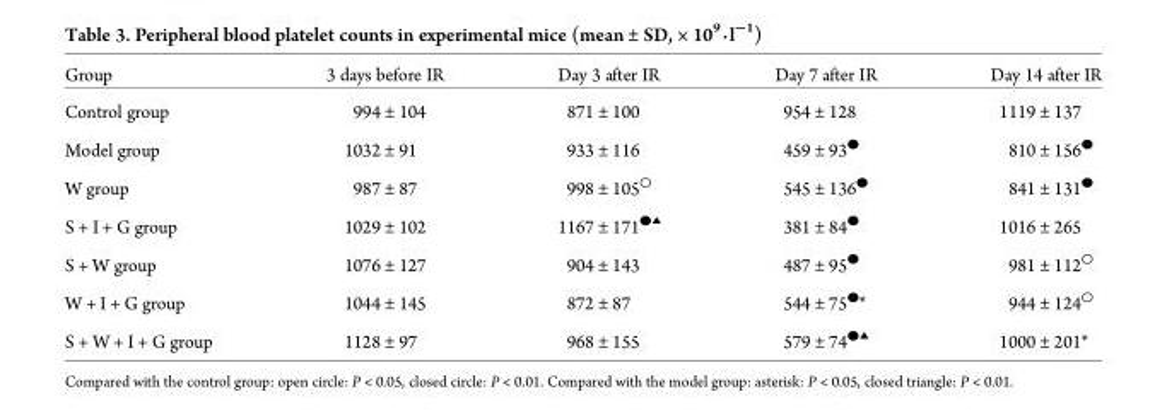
<table><thead><tr><td>Group</td><td>3 days before IR</td><td>Day 3 after IR</td><td>Day 7 after IR</td><td>Day 14 after IR</td></tr></thead><tbody><tr><td>Control group</td><td>994 ± 104</td><td>871 ± 100</td><td>954 ± 128</td><td>1119 ± 137</td></tr><tr><td>Model group</td><td>1032 ± 91</td><td>933 ± 116</td><td>459 ± 93<sup>●</sup></td><td>810 ± 156<sup>●</sup></td></tr><tr><td>W group</td><td>987 ± 87</td><td>998 ± 105<sup>○</sup></td><td>545 ± 136<sup>●</sup></td><td>841 ± 131<sup>●</sup></td></tr><tr><td>S + I + G group</td><td>1029 ± 102</td><td>1167 ± 171●▴</td><td>381 ± 84<sup>●</sup></td><td>1016 ± 265</td></tr><tr><td>S + W group</td><td>1076 ± 127</td><td>904 ± 143</td><td>487 ± 95<sup>●</sup></td><td>981 ± 112<sup>○</sup></td></tr><tr><td>W + I + G group</td><td>1044 ± 145</td><td>872 ± 87</td><td>544 ± 75<sup>●</sup>*</td><td>944 ± 124<sup>○</sup></td></tr><tr><td>S + W + I + G group</td><td>1128 ± 97</td><td>968 ± 155</td><td>579 ± 74●▴</td><td>1000 ± 201*</td></tr></tbody></table>